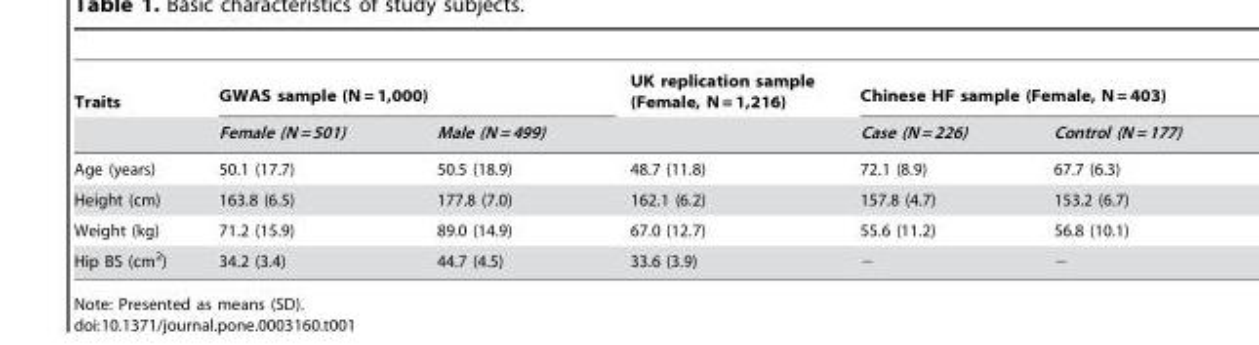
<table><thead><tr><td rowspan="2">Traits</td><td colspan="2">GWAS sample (N = 1,000)</td><td rowspan="2">UK replication sample (Female, N = 1,216)</td><td colspan="2">Chinese HF sample (Female, N = 403)</td></tr><tr><td>Female (N = 501)</td><td>Male (N = 499)</td><td>Case (N = 226)</td><td>Control (N = 177)</td></tr></thead><tbody><tr><td>Age (years)</td><td>50.1 (17.7)</td><td>50.5 (18.9)</td><td>48.7 (11.8)</td><td>72.1 (8.9)</td><td>67.7 (6.3)</td></tr><tr><td>Height (cm)</td><td>163.8 (6.5)</td><td>177.8 (7.0)</td><td>162.1 (6.2)</td><td>157.8 (4.7)</td><td>153.2 (6.7)</td></tr><tr><td>Weight (kg)</td><td>71.2 (15.9)</td><td>89.0 (14.9)</td><td>67.0 (12.7)</td><td>55.6 (11.2)</td><td>56.8 (10.1)</td></tr><tr><td>Hip BS (cm<sup>2</sup>)</td><td>34.2 (3.4)</td><td>44.7 (4.5)</td><td>33.6 (3.9)</td><td>−</td><td>−</td></tr></tbody></table>